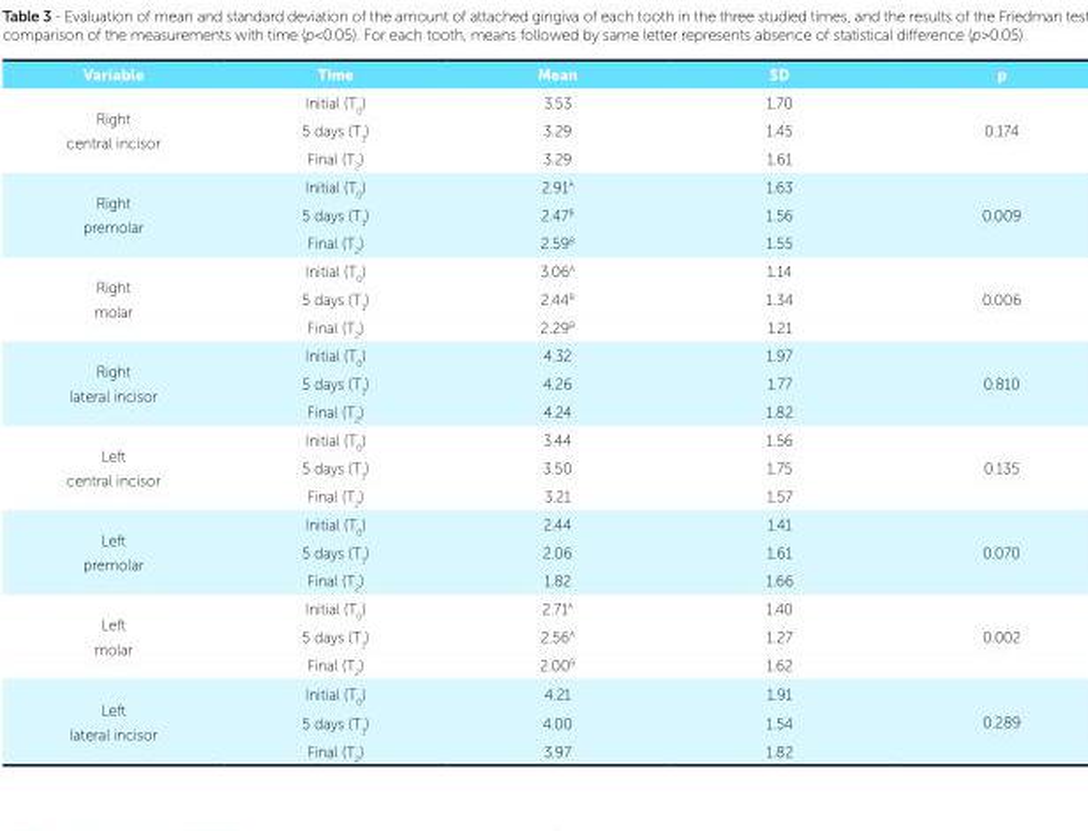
<table><tbody><tr><td>Variable</td><td>Time</td><td>Mean</td><td>SD</td><td>p</td></tr><tr><td rowspan="3">Right central incisor</td><td>Initial (T<sub>0</sub>)</td><td>3.53</td><td>1.70</td><td rowspan="3">0.174</td></tr><tr><td>5 days (T<sub>1</sub>)</td><td>3.29</td><td>1.45</td></tr><tr><td>Final (T<sub>2</sub>)</td><td>3.29</td><td>1.61</td></tr><tr><td rowspan="3">Right premolar</td><td>Initial (T<sub>0</sub>)</td><td>2.91<sup>A</sup></td><td>1.63</td><td rowspan="3">0.009</td></tr><tr><td>5 days (T<sub>1</sub>)</td><td>2.47<sup>B</sup></td><td>1.56</td></tr><tr><td>Final (T<sub>2</sub>)</td><td>2.59<sup>B</sup></td><td>1.55</td></tr><tr><td rowspan="3">Right molar</td><td>Initial (T<sub>0</sub>)</td><td>3.06<sup>A</sup></td><td>1.14</td><td rowspan="3">0.006</td></tr><tr><td>5 days (T<sub>1</sub>)</td><td>2.44<sup>B</sup></td><td>1.34</td></tr><tr><td>Final (T<sub>2</sub>)</td><td>2.29<sup>B</sup></td><td>1.21</td></tr><tr><td rowspan="3">Right lateral incisor</td><td>Initial (T<sub>0</sub>)</td><td>4.32</td><td>1.97</td><td rowspan="3">0.810</td></tr><tr><td>5 days (T<sub>1</sub>)</td><td>4.26</td><td>1.77</td></tr><tr><td>Final (T<sub>2</sub>)</td><td>4.24</td><td>1.82</td></tr><tr><td rowspan="3">Left central incisor</td><td>Initial (T<sub>0</sub>)</td><td>3.44</td><td>1.56</td><td rowspan="3">0.135</td></tr><tr><td>5 days (T<sub>1</sub>)</td><td>3.50</td><td>1.75</td></tr><tr><td>Final (T<sub>2</sub>)</td><td>3.21</td><td>1.57</td></tr><tr><td rowspan="3">Left premolar</td><td>Initial (T<sub>0</sub>)</td><td>2.44</td><td>1.41</td><td rowspan="3">0.070</td></tr><tr><td>5 days (T<sub>1</sub>)</td><td>2.06</td><td>1.61</td></tr><tr><td>Final (T<sub>2</sub>)</td><td>1.82</td><td>1.66</td></tr><tr><td rowspan="3">Left molar</td><td>Initial (T<sub>0</sub>)</td><td>2.71<sup>A</sup></td><td>1.40</td><td rowspan="3">0.002</td></tr><tr><td>5 days (T<sub>1</sub>)</td><td>2.56<sup>A</sup></td><td>1.27</td></tr><tr><td>Final (T<sub>2</sub>)</td><td>2.00<sup>B</sup></td><td>1.62</td></tr><tr><td rowspan="3">Left lateral incisor</td><td>Initial (T<sub>0</sub>)</td><td>4.21</td><td>1.91</td><td rowspan="3">0.289</td></tr><tr><td>5 days (T<sub>1</sub>)</td><td>4.00</td><td>1.54</td></tr><tr><td>Final (T<sub>2</sub>)</td><td>3.97</td><td>1.82</td></tr></tbody></table>